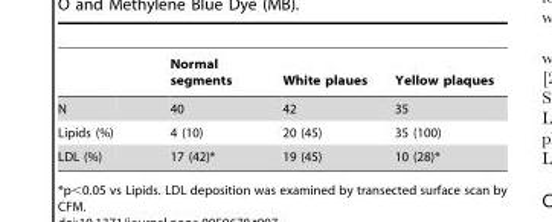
<table><thead><tr><td></td><td>Normal segments</td><td>White plaues</td><td>Yellow plaques</td></tr></thead><tbody><tr><td>N</td><td>40</td><td>42</td><td>35</td></tr><tr><td>Lipids (%)</td><td>4 (10)</td><td>20 (45)</td><td>35 (100)</td></tr><tr><td>LDL (%)</td><td>17 (42)*</td><td>19 (45)</td><td>10 (28)*</td></tr></tbody></table>